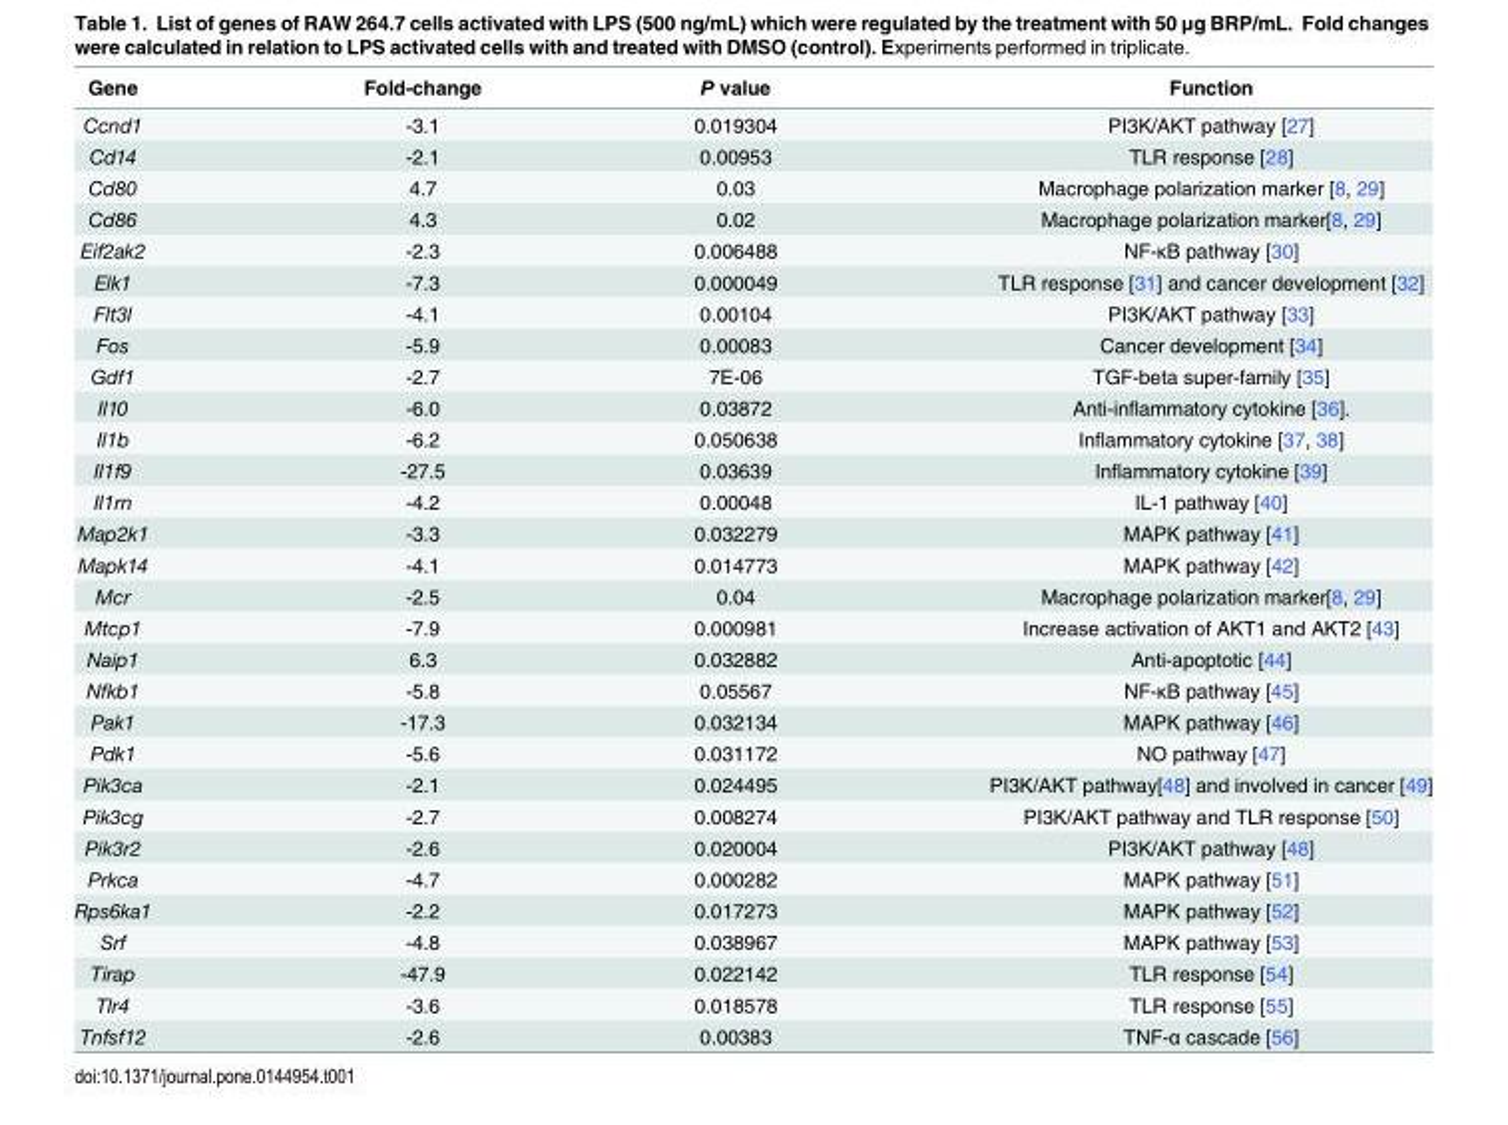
<table><thead><tr><td>Gene</td><td>Fold-change</td><td>P value</td><td>Function</td></tr></thead><tbody><tr><td>Ccnd1</td><td>-3.1</td><td>0.019304</td><td>PI3K/AKT pathway [27]</td></tr><tr><td>Cd14</td><td>-2.1</td><td>0.00953</td><td>TLR response [28]</td></tr><tr><td>Cd80</td><td>4.7</td><td>0.03</td><td>Macrophage polarization marker [8, 29]</td></tr><tr><td>Cd86</td><td>4.3</td><td>0.02</td><td>Macrophage polarization marker[8, 29]</td></tr><tr><td>Eif2ak2</td><td>-2.3</td><td>0.006488</td><td>NF-κB pathway [30]</td></tr><tr><td>Elk1</td><td>-7.3</td><td>0.000049</td><td>TLR response [31] and cancer development [32]</td></tr><tr><td>Flt3l</td><td>-4.1</td><td>0.00104</td><td>PI3K/AKT pathway [33]</td></tr><tr><td>Fos</td><td>-5.9</td><td>0.00083</td><td>Cancer development [34]</td></tr><tr><td>Gdf1</td><td>-2.7</td><td>7E-06</td><td>TGF-beta super-family [35]</td></tr><tr><td>Il10</td><td>-6.0</td><td>0.03872</td><td>Anti-inflammatory cytokine [36].</td></tr><tr><td>Il1b</td><td>-6.2</td><td>0.050638</td><td>Inflammatory cytokine [37, 38]</td></tr><tr><td>Il1f9</td><td>-27.5</td><td>0.03639</td><td>Inflammatory cytokine [39]</td></tr><tr><td>Il1rn</td><td>-4.2</td><td>0.00048</td><td>IL-1 pathway [40]</td></tr><tr><td>Map2k1</td><td>-3.3</td><td>0.032279</td><td>MAPK pathway [41]</td></tr><tr><td>Mapk14</td><td>-4.1</td><td>0.014773</td><td>MAPK pathway [42]</td></tr><tr><td>Mcr</td><td>-2.5</td><td>0.04</td><td>Macrophage polarization marker[8, 29]</td></tr><tr><td>Mtcp1</td><td>-7.9</td><td>0.000981</td><td>Increase activation of AKT1 and AKT2 [43]</td></tr><tr><td>Naip1</td><td>6.3</td><td>0.032882</td><td>Anti-apoptotic [44]</td></tr><tr><td>Nfkb1</td><td>-5.8</td><td>0.05567</td><td>NF-κB pathway [45]</td></tr><tr><td>Pak1</td><td>-17.3</td><td>0.032134</td><td>MAPK pathway [46]</td></tr><tr><td>Pdk1</td><td>-5.6</td><td>0.031172</td><td>NO pathway [47]</td></tr><tr><td>Pik3ca</td><td>-2.1</td><td>0.024495</td><td>PI3K/AKT pathway[48] and involved in cancer [49]</td></tr><tr><td>Pik3cg</td><td>-2.7</td><td>0.008274</td><td>PI3K/AKT pathway and TLR response [50]</td></tr><tr><td>Pik3r2</td><td>-2.6</td><td>0.020004</td><td>PI3K/AKT pathway [48]</td></tr><tr><td>Prkca</td><td>-4.7</td><td>0.000282</td><td>MAPK pathway [51]</td></tr><tr><td>Rps6ka1</td><td>-2.2</td><td>0.017273</td><td>MAPK pathway [52]</td></tr><tr><td>Srf</td><td>-4.8</td><td>0.038967</td><td>MAPK pathway [53]</td></tr><tr><td>Tirap</td><td>-47.9</td><td>0.022142</td><td>TLR response [54]</td></tr><tr><td>Tlr4</td><td>-3.6</td><td>0.018578</td><td>TLR response [55]</td></tr><tr><td>Tnfsf12</td><td>-2.6</td><td>0.00383</td><td>TNF-α cascade [56]</td></tr></tbody></table>